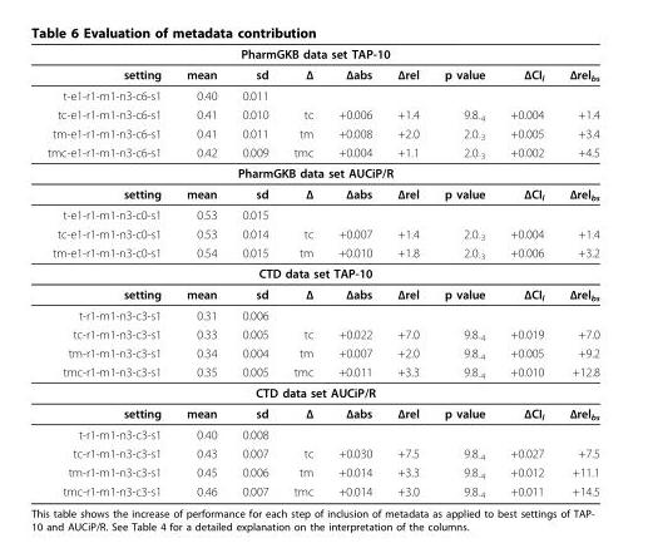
<table><thead><tr><td colspan="9">PharmGKB data set TAP-10</td></tr><tr><td>setting</td><td>mean</td><td>sd</td><td>Δ</td><td>Δabs</td><td>Δrel</td><td>p value</td><td>ΔCI<sub>l</sub></td><td>Δrel<sub>bs</sub></td></tr></thead><tbody><tr><td>t-e1-r1-m1-n3-c6-s1</td><td>0.40</td><td>0.011</td><td></td><td></td><td></td><td></td><td></td><td></td></tr><tr><td>tc-e1-r1-m1-n3-c6-s1</td><td>0.41</td><td>0.010</td><td>tc</td><td>+0.006</td><td>+1.4</td><td>9.8<sub>-4</sub></td><td>+0.004</td><td>+1.4</td></tr><tr><td>tm-e1-r1-m1-n3-c6-s1</td><td>0.41</td><td>0.011</td><td>tm</td><td>+0.008</td><td>+2.0</td><td>2.0<sub>-3</sub></td><td>+0.005</td><td>+3.4</td></tr><tr><td>tmc-e1-r1-m1-n3-c6-s1</td><td>0.42</td><td>0.009</td><td>tmc</td><td>+0.004</td><td>+1.1</td><td>2.0<sub>-3</sub></td><td>+0.002</td><td>+4.5</td></tr><tr><td colspan="9">PharmGKB data set AUCiP/R</td></tr><tr><td>setting</td><td>mean</td><td>sd</td><td>Δ</td><td>Δabs</td><td>Δrel</td><td>p value</td><td>ΔCI<sub>l</sub></td><td>Δrel<sub>bs</sub></td></tr><tr><td>t-e1-r1-m1-n3-c0-s1</td><td>0.53</td><td>0.015</td><td></td><td></td><td></td><td></td><td></td><td></td></tr><tr><td>tc-e1-r1-m1-n3-c0-s1</td><td>0.53</td><td>0.014</td><td>tc</td><td>+0.007</td><td>+1.4</td><td>2.0<sub>-3</sub></td><td>+0.004</td><td>+1.4</td></tr><tr><td>tm-e1-r1-m1-n3-c0-s1</td><td>0.54</td><td>0.015</td><td>tm</td><td>+0.010</td><td>+1.8</td><td>2.0<sub>-3</sub></td><td>+0.006</td><td>+3.2</td></tr><tr><td colspan="9">CTD data set TAP-10</td></tr><tr><td>setting</td><td>mean</td><td>sd</td><td>Δ</td><td>Δabs</td><td>Δrel</td><td>p value</td><td>ΔCI<sub>l</sub></td><td>Δrel<sub>bs</sub></td></tr><tr><td>t-r1-m1-n3-c3-s1</td><td>0.31</td><td>0.006</td><td></td><td></td><td></td><td></td><td></td><td></td></tr><tr><td>tc-r1-m1-n3-c3-s1</td><td>0.33</td><td>0.005</td><td>tc</td><td>+0.022</td><td>+7.0</td><td>9.8<sub>-4</sub></td><td>+0.019</td><td>+7.0</td></tr><tr><td>tm-r1-m1-n3-c3-s1</td><td>0.34</td><td>0.004</td><td>tm</td><td>+0.007</td><td>+2.0</td><td>9.8<sub>-4</sub></td><td>+0.005</td><td>+9.2</td></tr><tr><td>tmc-r1-m1-n3-c3-s1</td><td>0.35</td><td>0.005</td><td>tmc</td><td>+0.011</td><td>+3.3</td><td>9.8<sub>-4</sub></td><td>+0.010</td><td>+12.8</td></tr><tr><td colspan="9">CTD data set AUCiP/R</td></tr><tr><td>setting</td><td>mean</td><td>sd</td><td>Δ</td><td>Δabs</td><td>Δrel</td><td>p value</td><td>ΔCI<sub>l</sub></td><td>Δrel<sub>bs</sub></td></tr><tr><td>t-r1-m1-n3-c3-s1</td><td>0.40</td><td>0.008</td><td></td><td></td><td></td><td></td><td></td><td></td></tr><tr><td>tc-r1-m1-n3-c3-s1</td><td>0.43</td><td>0.007</td><td>tc</td><td>+0.030</td><td>+7.5</td><td>9.8<sub>-4</sub></td><td>+0.027</td><td>+7.5</td></tr><tr><td>tm-r1-m1-n3-c3-s1</td><td>0.45</td><td>0.006</td><td>tm</td><td>+0.014</td><td>+3.3</td><td>9.8<sub>-4</sub></td><td>+0.012</td><td>+11.1</td></tr><tr><td>tmc-r1-m1-n3-c3-s1</td><td>0.46</td><td>0.007</td><td>tmc</td><td>+0.014</td><td>+3.0</td><td>9.8<sub>-4</sub></td><td>+0.011</td><td>+14.5</td></tr></tbody></table>